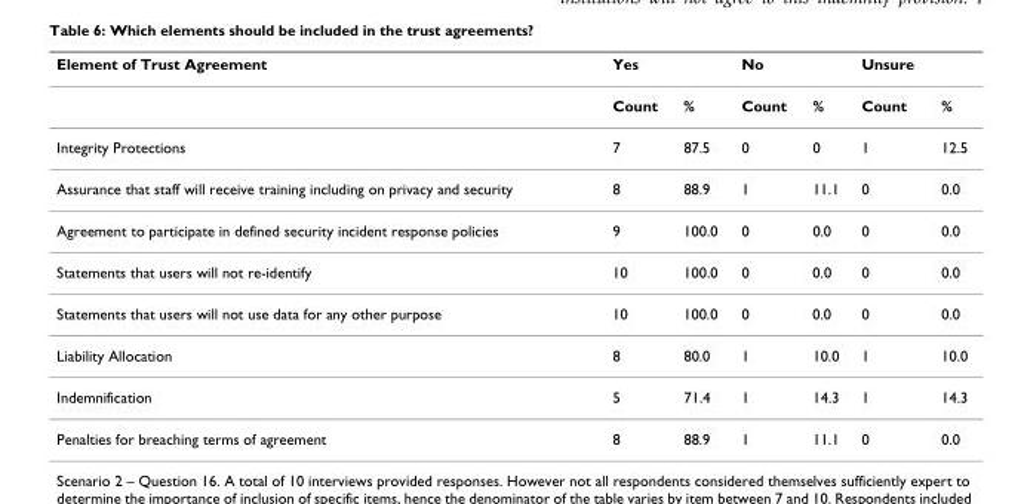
<table><thead><tr><td>Element of Trust Agreement</td><td>Yes</td><td></td><td>No</td><td></td><td>Unsure</td><td></td></tr></thead><tbody><tr><td></td><td>Count</td><td>%</td><td>Count</td><td>%</td><td>Count</td><td>%</td></tr><tr><td>Integrity Protections</td><td>7</td><td>87.5</td><td>0</td><td>0</td><td>1</td><td>12.5</td></tr><tr><td>Assurance that staff will receive training including on privacy and security</td><td>8</td><td>88.9</td><td>1</td><td>11.1</td><td>0</td><td>0.0</td></tr><tr><td>Agreement to participate in defined security incident response policies</td><td>9</td><td>100.0</td><td>0</td><td>0.0</td><td>0</td><td>0.0</td></tr><tr><td>Statements that users will not re-identify</td><td>10</td><td>100.0</td><td>0</td><td>0.0</td><td>0</td><td>0.0</td></tr><tr><td>Statements that users will not use data for any other purpose</td><td>10</td><td>100.0</td><td>0</td><td>0.0</td><td>0</td><td>0.0</td></tr><tr><td>Liability Allocation</td><td>8</td><td>80.0</td><td>1</td><td>10.0</td><td>1</td><td>10.0</td></tr><tr><td>Indemnification</td><td>5</td><td>71.4</td><td>1</td><td>14.3</td><td>1</td><td>14.3</td></tr><tr><td>Penalties for breaching terms of agreement</td><td>8</td><td>88.9</td><td>1</td><td>11.1</td><td>0</td><td>0.0</td></tr></tbody></table>